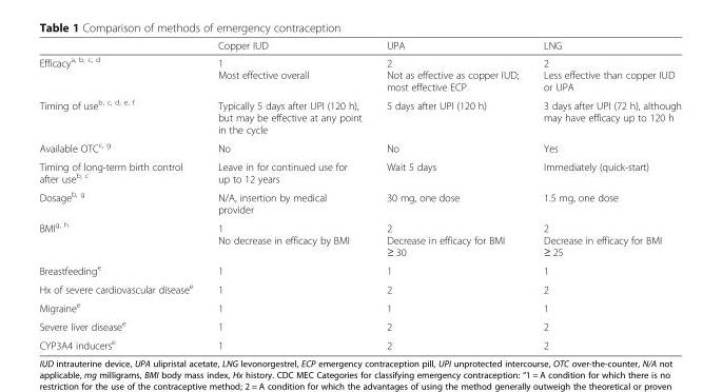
<table><thead><tr><td></td><td>Copper IUD</td><td>UPA</td><td>LNG</td></tr></thead><tbody><tr><td>Efficacy<sup>a, b, c, d</sup></td><td>1 Most effective overall</td><td>2 Not as effective as copper IUD; most effective ECP</td><td>2 Less effective than copper IUD or UPA</td></tr><tr><td>Timing of use<sup>b, c, d, e, f</sup></td><td>Typically 5 days after UPI (120 h), but may be effective at any point in the cycle</td><td>5 days after UPI (120 h)</td><td>3 days after UPI (72 h), although may have efficacy up to 120 h</td></tr><tr><td>Available OTC<sup>c, g</sup></td><td>No</td><td>No</td><td>Yes</td></tr><tr><td>Timing of long-term birth control after use<sup>b, c</sup></td><td>Leave in for continued use for up to 12 years</td><td>Wait 5 days</td><td>Immediately (quick-start)</td></tr><tr><td>Dosage<sup>b, g</sup></td><td>N/A, insertion by medical provider</td><td>30 mg, one dose</td><td>1.5 mg, one dose</td></tr><tr><td>BMI<sup>g, h</sup></td><td>1 No decrease in efficacy by BMI</td><td>2 Decrease in efficacy for BMI ≥ 30</td><td>2 Decrease in efficacy for BMI ≥ 25</td></tr><tr><td>Breastfeeding<sup>e</sup></td><td>1</td><td>1</td><td>1</td></tr><tr><td>Hx of severe cardiovascular disease<sup>e</sup></td><td>1</td><td>2</td><td>2</td></tr><tr><td>Migraine<sup>e</sup></td><td>1</td><td>1</td><td>1</td></tr><tr><td>Severe liver disease<sup>e</sup></td><td>1</td><td>2</td><td>2</td></tr><tr><td>CYP3A4 inducers<sup>e</sup></td><td>1</td><td>2</td><td>2</td></tr></tbody></table>